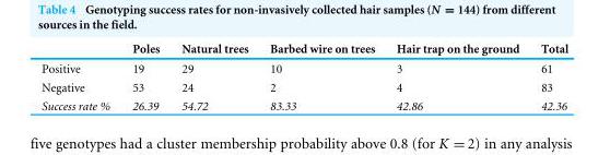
<table><thead><tr><td></td><td>Poles</td><td>Natural trees</td><td>Barbed wire on trees</td><td>Hair trap on the ground</td><td>Total</td></tr></thead><tbody><tr><td>Positive</td><td>19</td><td>29</td><td>10</td><td>3</td><td>61</td></tr><tr><td>Negative</td><td>53</td><td>24</td><td>2</td><td>4</td><td>83</td></tr><tr><td>Success rate %</td><td>26.39</td><td>54.72</td><td>83.33</td><td>42.86</td><td>42.36</td></tr></tbody></table>